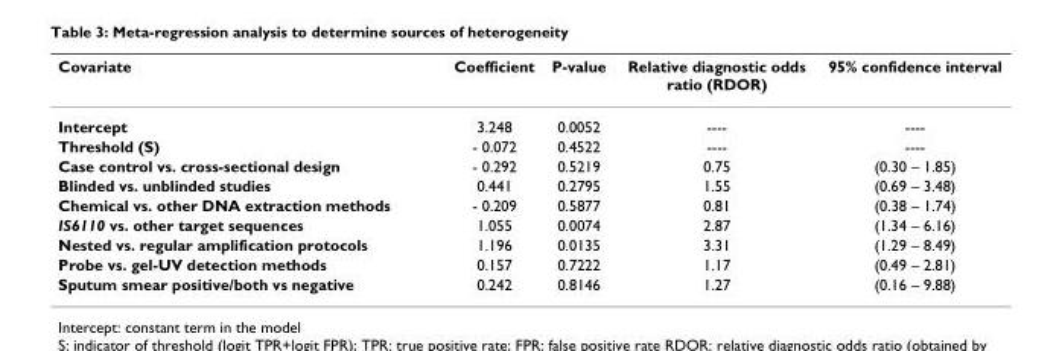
<table><thead><tr><td>Covariate</td><td>Coefficient</td><td>P-value</td><td>Relative diagnostic odds ratio (RDOR)</td><td>95% confidence interval</td></tr></thead><tbody><tr><td>Intercept</td><td>3.248</td><td>0.0052</td><td>----</td><td>----</td></tr><tr><td>Threshold (S)</td><td>- 0.072</td><td>0.4522</td><td>----</td><td>----</td></tr><tr><td>Case control vs. cross-sectional design</td><td>- 0.292</td><td>0.5219</td><td>0.75</td><td>(0.30 – 1.85)</td></tr><tr><td>Blinded vs. unblinded studies</td><td>0.441</td><td>0.2795</td><td>1.55</td><td>(0.69 – 3.48)</td></tr><tr><td>Chemical vs. other DNA extraction methods</td><td>- 0.209</td><td>0.5877</td><td>0.81</td><td>(0.38 – 1.74)</td></tr><tr><td>IS6110 vs. other target sequences</td><td>1.055</td><td>0.0074</td><td>2.87</td><td>(1.34 – 6.16)</td></tr><tr><td>Nested vs. regular amplification protocols</td><td>1.196</td><td>0.0135</td><td>3.31</td><td>(1.29 – 8.49)</td></tr><tr><td>Probe vs. gel-UV detection methods</td><td>0.157</td><td>0.7222</td><td>1.17</td><td>(0.49 – 2.81)</td></tr><tr><td>Sputum smear positive/both vs negative</td><td>0.242</td><td>0.8146</td><td>1.27</td><td>(0.16 – 9.88)</td></tr></tbody></table>